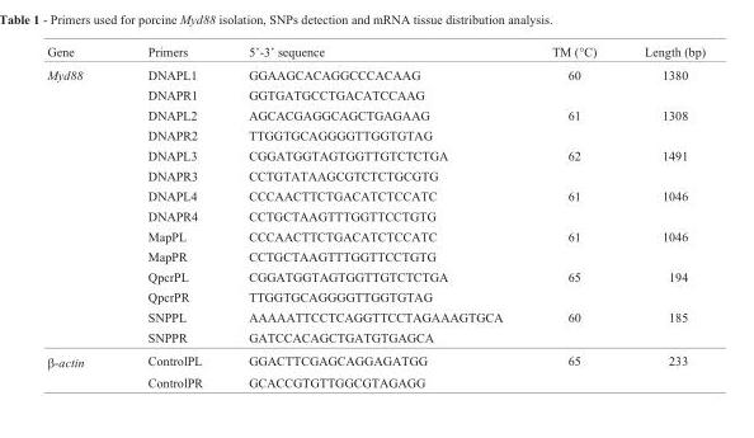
<table><thead><tr><td>Gene</td><td>Primers</td><td>5’-3’ sequence</td><td>TM (°C)</td><td>Length (bp)</td></tr></thead><tbody><tr><td rowspan="14">Myd88</td><td>DNAPL1</td><td>GGAAGCACAGGCCCACAAG</td><td>60</td><td>1380</td></tr><tr><td>DNAPR1</td><td>GGTGATGCCTGACATCCAAG</td><td></td><td></td></tr><tr><td>DNAPL2</td><td>AGCACGAGGCAGCTGAGAAG</td><td>61</td><td>1308</td></tr><tr><td>DNAPR2</td><td>TTGGTGCAGGGGTTGGTGTAG</td><td></td><td></td></tr><tr><td>DNAPL3</td><td>CGGATGGTAGTGGTTGTCTCTGA</td><td>62</td><td>1491</td></tr><tr><td>DNAPR3</td><td>CCTGTATAAGCGTCTCTGCGTG</td><td></td><td></td></tr><tr><td>DNAPL4</td><td>CCCAACTTCTGACATCTCCATC</td><td>61</td><td>1046</td></tr><tr><td>DNAPR4</td><td>CCTGCTAAGTTTGGTTCCTGTG</td><td></td><td></td></tr><tr><td>MapPL</td><td>CCCAACTTCTGACATCTCCATC</td><td>61</td><td>1046</td></tr><tr><td>MapPR</td><td>CCTGCTAAGTTTGGTTCCTGTG</td><td></td><td></td></tr><tr><td>QpcrPL</td><td>CGGATGGTAGTGGTTGTCTCTGA</td><td>65</td><td>194</td></tr><tr><td>QpcrPR</td><td>TTGGTGCAGGGGTTGGTGTAG</td><td></td><td></td></tr><tr><td>SNPPL</td><td>AAAAATTCCTCAGGTTCCTAGAAAGTGCA</td><td>60</td><td>185</td></tr><tr><td>SNPPR</td><td>GATCCACAGCTGATGTGAGCA</td><td></td><td></td></tr><tr><td rowspan="2">β-actin</td><td>ControlPL</td><td>GGACTTCGAGCAGGAGATGG</td><td>65</td><td>233</td></tr><tr><td>ControlPR</td><td>GCACCGTGTTGGCGTAGAGG</td><td></td><td></td></tr></tbody></table>